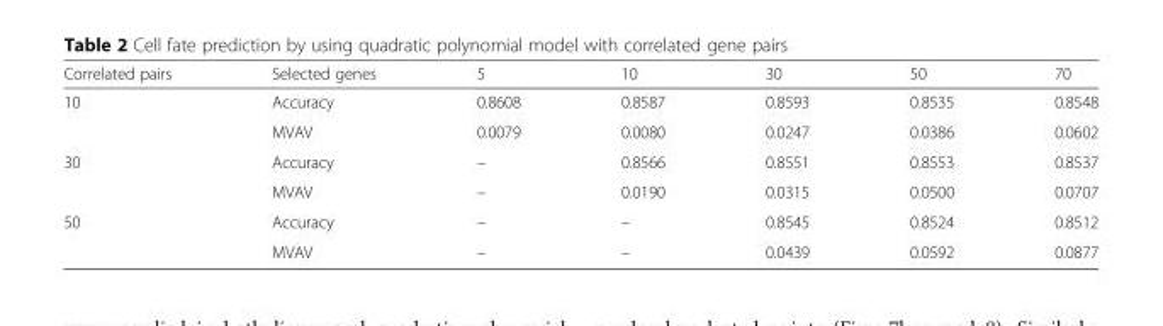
<table><thead><tr><td>Correlated pairs</td><td>Selected genes</td><td>5</td><td>10</td><td>30</td><td>50</td><td>70</td></tr></thead><tbody><tr><td rowspan="2">10</td><td>Accuracy</td><td>0.8608</td><td>0.8587</td><td>0.8593</td><td>0.8535</td><td>0.8548</td></tr><tr><td>MVAV</td><td>0.0079</td><td>0.0080</td><td>0.0247</td><td>0.0386</td><td>0.0602</td></tr><tr><td rowspan="2">30</td><td>Accuracy</td><td>–</td><td>0.8566</td><td>0.8551</td><td>0.8553</td><td>0.8537</td></tr><tr><td>MVAV</td><td>–</td><td>0.0190</td><td>0.0315</td><td>0.0500</td><td>0.0707</td></tr><tr><td rowspan="2">50</td><td>Accuracy</td><td>–</td><td>–</td><td>0.8545</td><td>0.8524</td><td>0.8512</td></tr><tr><td>MVAV</td><td>–</td><td>–</td><td>0.0439</td><td>0.0592</td><td>0.0877</td></tr></tbody></table>